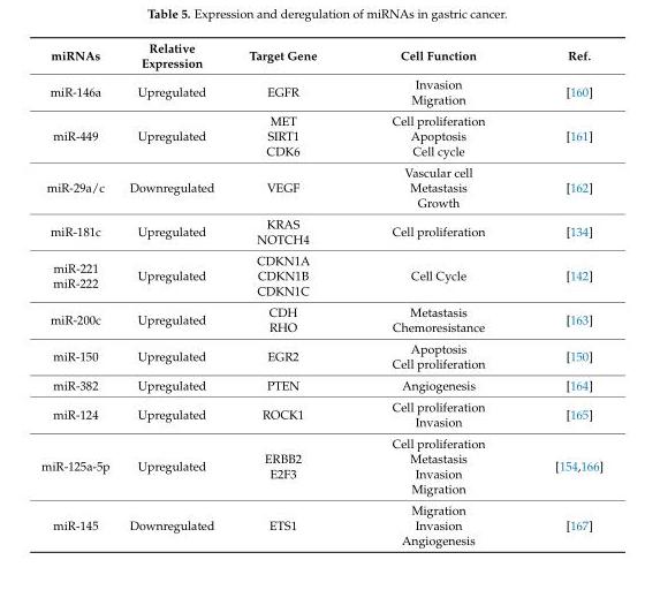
<table><thead><tr><td>miRNAs</td><td>Relative Expression</td><td>Target Gene</td><td>Cell Function</td><td>Ref.</td></tr></thead><tbody><tr><td>miR-146a</td><td>Upregulated</td><td>EGFR</td><td>Invasion Migration</td><td>[160]</td></tr><tr><td>miR-449</td><td>Upregulated</td><td>MET SIRT1 CDK6</td><td>Cell proliferation Apoptosis Cell cycle</td><td>[161]</td></tr><tr><td>miR-29a/c</td><td>Downregulated</td><td>VEGF</td><td>Vascular cell Metastasis Growth</td><td>[162]</td></tr><tr><td>miR-181c</td><td>Upregulated</td><td>KRAS NOTCH4</td><td>Cell proliferation</td><td>[134]</td></tr><tr><td>miR-221 miR-222</td><td>Upregulated</td><td>CDKN1A CDKN1B CDKN1C</td><td>Cell Cycle</td><td>[142]</td></tr><tr><td>miR-200c</td><td>Upregulated</td><td>CDH RHO</td><td>Metastasis Chemoresistance</td><td>[163]</td></tr><tr><td>miR-150</td><td>Upregulated</td><td>EGR2</td><td>Apoptosis Cell proliferation</td><td>[150]</td></tr><tr><td>miR-382</td><td>Upregulated</td><td>PTEN</td><td>Angiogenesis</td><td>[164]</td></tr><tr><td>miR-124</td><td>Upregulated</td><td>ROCK1</td><td>Cell proliferation Invasion</td><td>[165]</td></tr><tr><td>miR-125a-5p</td><td>Upregulated</td><td>ERBB2 E2F3</td><td>Cell proliferation Metastasis Invasion Migration</td><td>[154,166]</td></tr><tr><td>miR-145</td><td>Downregulated</td><td>ETS1</td><td>Migration Invasion Angiogenesis</td><td>[167]</td></tr></tbody></table>